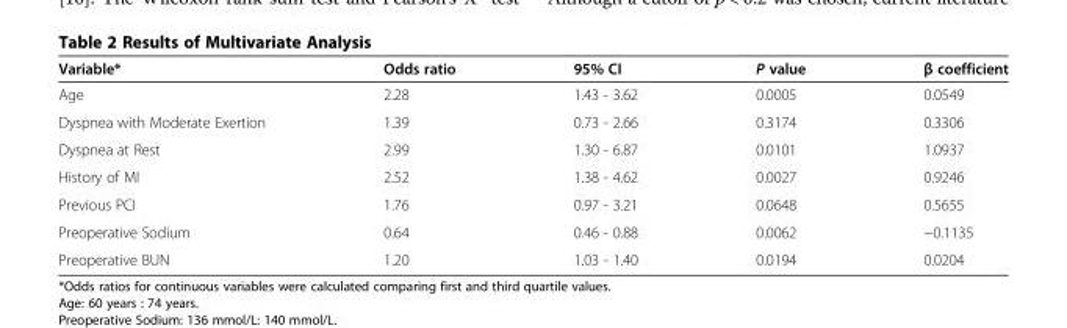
<table><thead><tr><td>Variable*</td><td>Odds ratio</td><td>95% CI</td><td>P value</td><td>β coefficient</td></tr></thead><tbody><tr><td>Age</td><td>2.28</td><td>1.43 - 3.62</td><td>0.0005</td><td>0.0549</td></tr><tr><td>Dyspnea with Moderate Exertion</td><td>1.39</td><td>0.73 - 2.66</td><td>0.3174</td><td>0.3306</td></tr><tr><td>Dyspnea at Rest</td><td>2.99</td><td>1.30 - 6.87</td><td>0.0101</td><td>1.0937</td></tr><tr><td>History of MI</td><td>2.52</td><td>1.38 - 4.62</td><td>0.0027</td><td>0.9246</td></tr><tr><td>Previous PCI</td><td>1.76</td><td>0.97 - 3.21</td><td>0.0648</td><td>0.5655</td></tr><tr><td>Preoperative Sodium</td><td>0.64</td><td>0.46 - 0.88</td><td>0.0062</td><td>−0.1135</td></tr><tr><td>Preoperative BUN</td><td>1.20</td><td>1.03 - 1.40</td><td>0.0194</td><td>0.0204</td></tr></tbody></table>